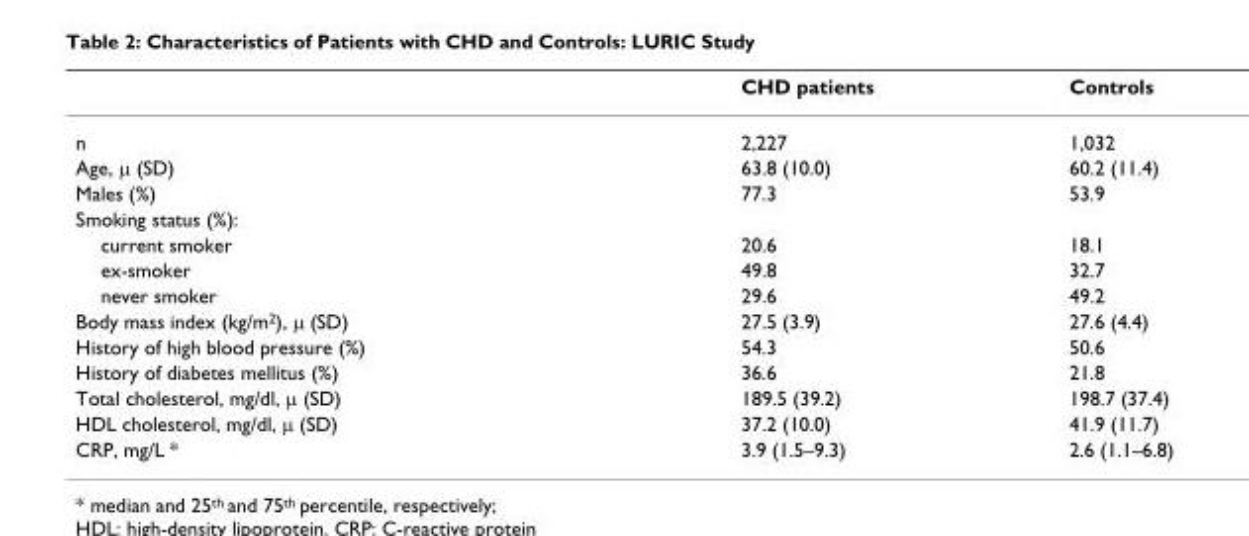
<table><thead><tr><td></td><td>CHD patients</td><td>Controls</td></tr></thead><tbody><tr><td>n</td><td>2,227</td><td>1,032</td></tr><tr><td>Age, μ (SD)</td><td>63.8 (10.0)</td><td>60.2 (11.4)</td></tr><tr><td>Males (%)</td><td>77.3</td><td>53.9</td></tr><tr><td colspan="3">Smoking status (%):</td></tr><tr><td>current smoker</td><td>20.6</td><td>18.1</td></tr><tr><td>ex-smoker</td><td>49.8</td><td>32.7</td></tr><tr><td>never smoker</td><td>29.6</td><td>49.2</td></tr><tr><td>Body mass index (kg/m<sup>2</sup>), μ (SD)</td><td>27.5 (3.9)</td><td>27.6 (4.4)</td></tr><tr><td>History of high blood pressure (%)</td><td>54.3</td><td>50.6</td></tr><tr><td>History of diabetes mellitus (%)</td><td>36.6</td><td>21.8</td></tr><tr><td>Total cholesterol, mg/dl, μ (SD)</td><td>189.5 (39.2)</td><td>198.7 (37.4)</td></tr><tr><td>HDL cholesterol, mg/dl, μ (SD)</td><td>37.2 (10.0)</td><td>41.9 (11.7)</td></tr><tr><td>CRP, mg/L *</td><td>3.9 (1.5–9.3)</td><td>2.6 (1.1–6.8)</td></tr></tbody></table>